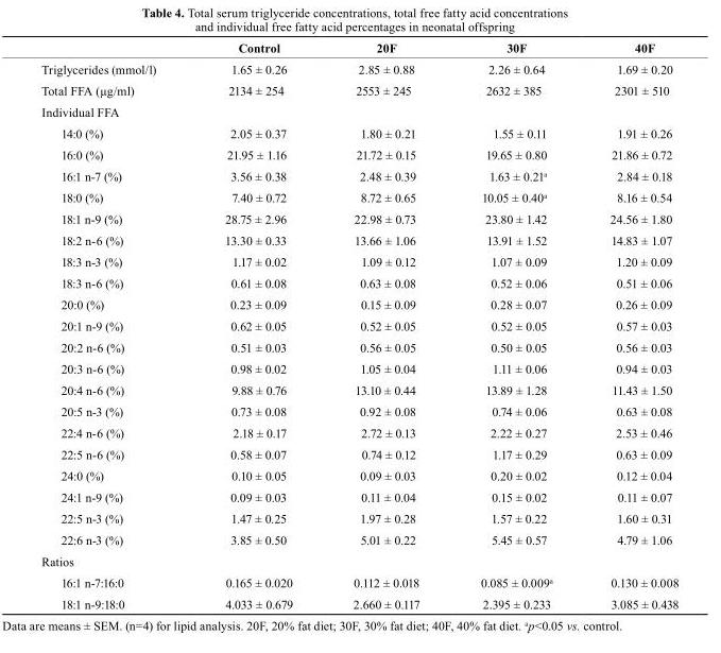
<table><thead><tr><td></td><td>control</td><td>20F</td><td>30F</td><td>40F</td></tr></thead><tbody><tr><td>Triglycerides (mmol/l)</td><td>1.65 ± 0.26</td><td>2.85 ± 0.88</td><td>2.26 ± 0.64</td><td>1.69 ± 0.20</td></tr><tr><td>Total FFA (µg/ml)</td><td>2134 ± 254</td><td>2553 ± 245</td><td>2632 ± 385</td><td>2301 ± 510</td></tr><tr><td colspan="5">Individual FFA</td></tr><tr><td>14:0 (%)</td><td>2.05 ± 0.37</td><td>1.80 ± 0.21</td><td>1.55 ± 0.11</td><td>1.91 ± 0.26</td></tr><tr><td>16:0 (%)</td><td>21.95 ± 1.16</td><td>21.72 ± 0.15</td><td>19.65 ± 0.80</td><td>21.86 ± 0.72</td></tr><tr><td>16:1 n-7 (%)</td><td>3.56 ± 0.38</td><td>2.48 ± 0.39</td><td>1.63 ± 0.21<sup>a</sup></td><td>2.84 ± 0.18</td></tr><tr><td>18:0 (%)</td><td>7.40 ± 0.72</td><td>8.72 ± 0.65</td><td>10.05 ± 0.40<sup>a</sup></td><td>8.16 ± 0.54</td></tr><tr><td>18:1 n-9 (%)</td><td>28.75 ± 2.96</td><td>22.98 ± 0.73</td><td>23.80 ± 1.42</td><td>24.56 ± 1.80</td></tr><tr><td>18:2 n-6 (%)</td><td>13.30 ± 0.33</td><td>13.66 ± 1.06</td><td>13.91 ± 1.52</td><td>14.83 ± 1.07</td></tr><tr><td>18:3 n-3 (%)</td><td>1.17 ± 0.02</td><td>1.09 ± 0.12</td><td>1.07 ± 0.09</td><td>1.20 ± 0.09</td></tr><tr><td>18:3 n-6 (%)</td><td>0.61 ± 0.08</td><td>0.63 ± 0.08</td><td>0.52 ± 0.06</td><td>0.51 ± 0.06</td></tr><tr><td>20:0 (%)</td><td>0.23 ± 0.09</td><td>0.15 ± 0.09</td><td>0.28 ± 0.07</td><td>0.26 ± 0.09</td></tr><tr><td>20:1 n-9 (%)</td><td>0.62 ± 0.05</td><td>0.52 ± 0.05</td><td>0.52 ± 0.05</td><td>0.57 ± 0.03</td></tr><tr><td>20:2 n-6 (%)</td><td>0.51 ± 0.03</td><td>0.56 ± 0.05</td><td>0.50 ± 0.05</td><td>0.56 ± 0.03</td></tr><tr><td>20:3 n-6 (%)</td><td>0.98 ± 0.02</td><td>1.05 ± 0.04</td><td>1.11 ± 0.06</td><td>0.94 ± 0.03</td></tr><tr><td>20:4 n-6 (%)</td><td>9.88 ± 0.76</td><td>13.10 ± 0.44</td><td>13.89 ± 1.28</td><td>11.43 ± 1.50</td></tr><tr><td>20:5 n-3 (%)</td><td>0.73 ± 0.08</td><td>0.92 ± 0.08</td><td>0.74 ± 0.06</td><td>0.63 ± 0.08</td></tr><tr><td>22:4 n-6 (%)</td><td>2.18 ± 0.17</td><td>2.72 ± 0.13</td><td>2.22 ± 0.27</td><td>2.53 ± 0.46</td></tr><tr><td>22:5 n-6 (%)</td><td>0.58 ± 0.07</td><td>0.74 ± 0.12</td><td>1.17 ± 0.29</td><td>0.63 ± 0.09</td></tr><tr><td>24:0 (%)</td><td>0.10 ± 0.05</td><td>0.09 ± 0.03</td><td>0.20 ± 0.02</td><td>0.12 ± 0.04</td></tr><tr><td>24:1 n-9 (%)</td><td>0.09 ± 0.03</td><td>0.11 ± 0.04</td><td>0.15 ± 0.02</td><td>0.11 ± 0.07</td></tr><tr><td>22:5 n-3 (%)</td><td>1.47 ± 0.25</td><td>1.97 ± 0.28</td><td>1.57 ± 0.22</td><td>1.60 ± 0.31</td></tr><tr><td>22:6 n-3 (%)</td><td>3.85 ± 0.50</td><td>5.01 ± 0.22</td><td>5.45 ± 0.57</td><td>4.79 ± 1.06</td></tr><tr><td colspan="5">Ratios</td></tr><tr><td>16:1 n-7:16:0</td><td>0.165 ± 0.020</td><td>0.112 ± 0.018</td><td>0.085 ± 0.009<sup>a</sup></td><td>0.130 ± 0.008</td></tr><tr><td>18:1 n-9:18:0</td><td>4.033 ± 0.679</td><td>2.660 ± 0.117</td><td>2.395 ± 0.233</td><td>3.085 ± 0.438</td></tr></tbody></table>